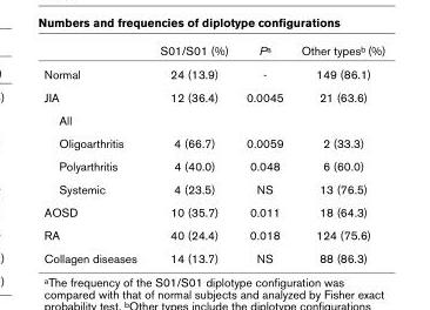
<table><thead><tr><td></td><td>S01/S01 (%)</td><td>Pa</td><td>Other typesb (%)</td></tr></thead><tbody><tr><td>Normal</td><td>24 (13.9)</td><td>-</td><td>149 (86.1)</td></tr><tr><td>JIA</td><td>12 (36.4)</td><td>0.0045</td><td>21 (63.6)</td></tr><tr><td colspan="4">All</td></tr><tr><td>Oligoarthritis</td><td>4 (66.7)</td><td>0.0059</td><td>2 (33.3)</td></tr><tr><td>Polyarthritis</td><td>4 (40.0)</td><td>0.048</td><td>6 (60.0)</td></tr><tr><td>Systemic</td><td>4 (23.5)</td><td>NS</td><td>13 (76.5)</td></tr><tr><td>AOSD</td><td>10 (35.7)</td><td>0.011</td><td>18 (64.3)</td></tr><tr><td>RA</td><td>40 (24.4)</td><td>0.018</td><td>124 (75.6)</td></tr><tr><td>Collagen diseases</td><td>14 (13.7)</td><td>NS</td><td>88 (86.3)</td></tr></tbody></table>